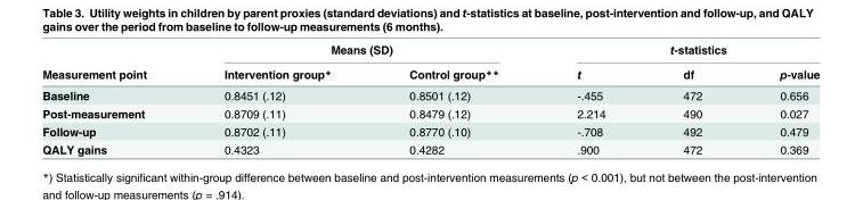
<table><thead><tr><td rowspan="2">Measurement point</td><td colspan="2">Means (SD)</td><td colspan="3">t-statistics</td></tr><tr><td>Intervention group*</td><td>Control group**</td><td>t</td><td>df</td><td>p-value</td></tr></thead><tbody><tr><td>Baseline</td><td>0.8451 (.12)</td><td>0.8501 (.12)</td><td>-.455</td><td>472</td><td>0.656</td></tr><tr><td>Post-measurement</td><td>0.8709 (.11)</td><td>0.8479 (.12)</td><td>2.214</td><td>490</td><td>0.027</td></tr><tr><td>Follow-up</td><td>0.8702 (.11)</td><td>0.8770 (.10)</td><td>-.708</td><td>492</td><td>0.479</td></tr><tr><td>QALY gains</td><td>0.4323</td><td>0.4282</td><td>.900</td><td>472</td><td>0.369</td></tr></tbody></table>